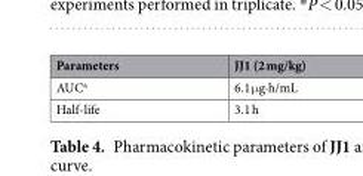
<table><thead><tr><td>Parameters</td><td>JJ1 (2 mg/kg)</td></tr></thead><tbody><tr><td>AUC<sup>a</sup></td><td>6.1 μg∙h/mL</td></tr><tr><td>Half-life</td><td>3.1 h</td></tr></tbody></table>